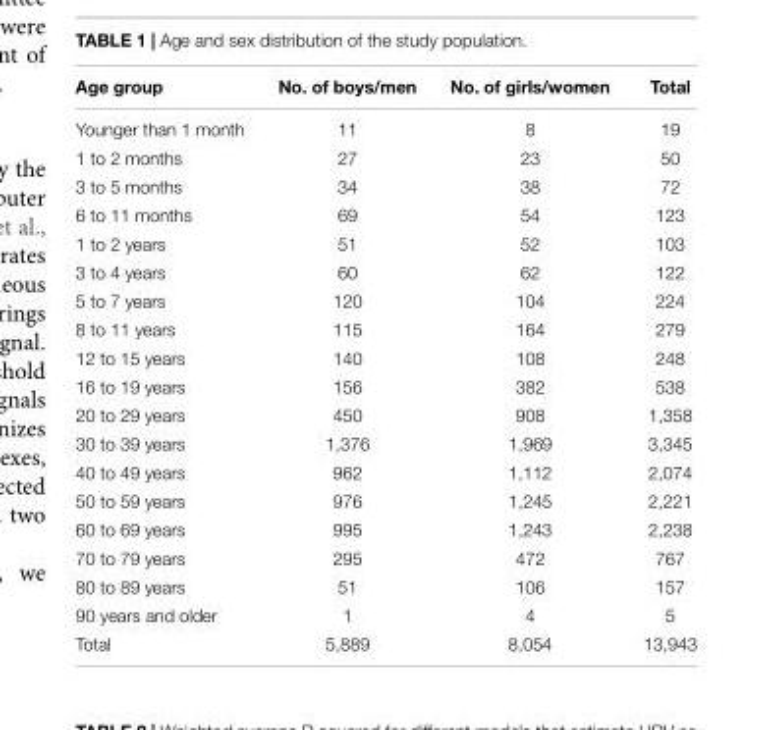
<table><thead><tr><td>Age group</td><td>No. of boys/men</td><td>No. of girls/women</td><td>Total</td></tr></thead><tbody><tr><td>Younger than 1 month</td><td>11</td><td>8</td><td>19</td></tr><tr><td>1 to 2 months</td><td>27</td><td>23</td><td>50</td></tr><tr><td>3 to 5 months</td><td>34</td><td>38</td><td>72</td></tr><tr><td>6 to 11 months</td><td>69</td><td>54</td><td>123</td></tr><tr><td>1 to 2 years</td><td>51</td><td>52</td><td>103</td></tr><tr><td>3 to 4 years</td><td>60</td><td>62</td><td>122</td></tr><tr><td>5 to 7 years</td><td>120</td><td>104</td><td>224</td></tr><tr><td>8 to 11 years</td><td>115</td><td>164</td><td>279</td></tr><tr><td>12 to 15 years</td><td>140</td><td>108</td><td>248</td></tr><tr><td>16 to 19 years</td><td>156</td><td>382</td><td>538</td></tr><tr><td>20 to 29 years</td><td>450</td><td>908</td><td>1,358</td></tr><tr><td>30 to 39 years</td><td>1,376</td><td>1,969</td><td>3,345</td></tr><tr><td>40 to 49 years</td><td>962</td><td>1,112</td><td>2,074</td></tr><tr><td>50 to 59 years</td><td>976</td><td>1,245</td><td>2,221</td></tr><tr><td>60 to 69 years</td><td>995</td><td>1,243</td><td>2,238</td></tr><tr><td>70 to 79 years</td><td>295</td><td>472</td><td>767</td></tr><tr><td>80 to 89 years</td><td>51</td><td>106</td><td>157</td></tr><tr><td>90 years and older</td><td>1</td><td>4</td><td>5</td></tr><tr><td>Total</td><td>5,889</td><td>8,054</td><td>13,943</td></tr></tbody></table>